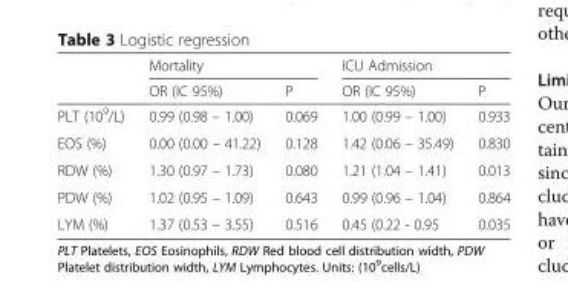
<table><thead><tr><td rowspan="2"></td><td colspan="2">Mortality</td><td colspan="2">ICU Admission</td></tr><tr><td>OR (IC 95%)</td><td>P</td><td>OR (IC 95%)</td><td>P</td></tr></thead><tbody><tr><td>PLT (10<sup>9</sup>/L)</td><td>0.99 (0.98 – 1.00)</td><td>0.069</td><td>1.00 (0.99 – 1.00)</td><td>0.933</td></tr><tr><td>EOS (%)</td><td>0.00 (0.00 – 41.22)</td><td>0.128</td><td>1.42 (0.06 – 35.49)</td><td>0.830</td></tr><tr><td>RDW (%)</td><td>1.30 (0.97 – 1.73)</td><td>0.080</td><td>1.21 (1.04 – 1.41)</td><td>0.013</td></tr><tr><td>PDW (%)</td><td>1.02 (0.95 – 1.09)</td><td>0.643</td><td>0.99 (0.96 – 1.04)</td><td>0.864</td></tr><tr><td>LYM (%)</td><td>1.37 (0.53 – 3.55)</td><td>0.516</td><td>0.45 (0.22 - 0.95</td><td>0.035</td></tr></tbody></table>